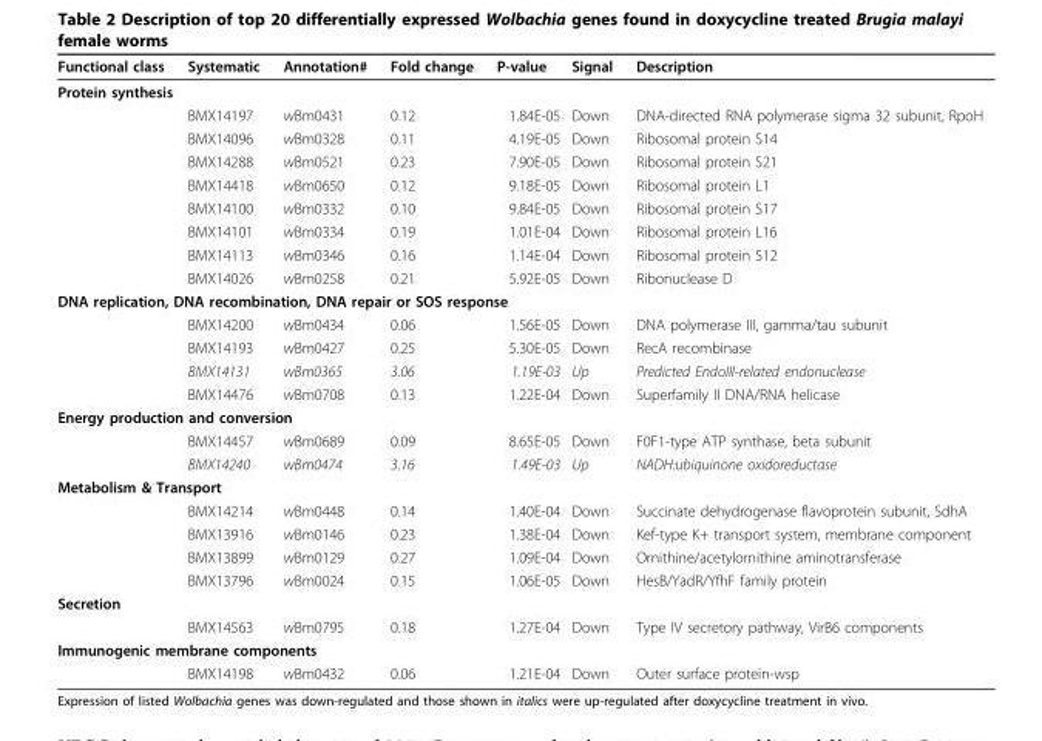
<table><thead><tr><td>Functional class</td><td>Systematic</td><td>Annotation#</td><td>Fold change</td><td>P-value</td><td>Signal</td><td>Description</td></tr></thead><tbody><tr><td colspan="7">Protein synthesis</td></tr><tr><td></td><td>BMX14197</td><td>wBm0431</td><td>0.12</td><td>1.84E-05</td><td>Down</td><td>DNA-directed RNA polymerase sigma 32 subunit, RpoH</td></tr><tr><td></td><td>BMX14096</td><td>wBm0328</td><td>0.11</td><td>4.19E-05</td><td>Down</td><td>Ribosomal protein S14</td></tr><tr><td></td><td>BMX14288</td><td>wBm0521</td><td>0.23</td><td>7.90E-05</td><td>Down</td><td>Ribosomal protein S21</td></tr><tr><td></td><td>BMX14418</td><td>wBm0650</td><td>0.12</td><td>9.18E-05</td><td>Down</td><td>Ribosomal protein L1</td></tr><tr><td></td><td>BMX14100</td><td>wBm0332</td><td>0.10</td><td>9.84E-05</td><td>Down</td><td>Ribosomal protein S17</td></tr><tr><td></td><td>BMX14101</td><td>wBm0334</td><td>0.19</td><td>1.01E-04</td><td>Down</td><td>Ribosomal protein L16</td></tr><tr><td></td><td>BMX14113</td><td>wBm0346</td><td>0.16</td><td>1.14E-04</td><td>Down</td><td>Ribosomal protein S12</td></tr><tr><td></td><td>BMX14026</td><td>wBm0258</td><td>0.21</td><td>5.92E-05</td><td>Down</td><td>Ribonuclease D</td></tr><tr><td colspan="7">DNA replication, DNA recombination, DNA repair or SOS response</td></tr><tr><td></td><td>BMX14200</td><td>wBm0434</td><td>0.06</td><td>1.56E-05</td><td>Down</td><td>DNA polymerase III, gamma/tau subunit</td></tr><tr><td></td><td>BMX14193</td><td>wBm0427</td><td>0.25</td><td>5.30E-05</td><td>Down</td><td>RecA recombinase</td></tr><tr><td></td><td>BMX14131</td><td>wBm0365</td><td>3.06</td><td>1.19E-03</td><td>Up</td><td>Predicted EndoIII-related endonuclease</td></tr><tr><td></td><td>BMX14476</td><td>wBm0708</td><td>0.13</td><td>1.22E-04</td><td>Down</td><td>Superfamily II DNA/RNA helicase</td></tr><tr><td colspan="7">Energy production and conversion</td></tr><tr><td></td><td>BMX14457</td><td>wBm0689</td><td>0.09</td><td>8.65E-05</td><td>Down</td><td>F0F1-type ATP synthase, beta subunit</td></tr><tr><td></td><td>BMX14240</td><td>wBm0474</td><td>3.16</td><td>1.49E-03</td><td>Up</td><td>NADH:ubiquinone oxidoreductase</td></tr><tr><td colspan="7">Metabolism &amp; Transport</td></tr><tr><td></td><td>BMX14214</td><td>wBm0448</td><td>0.14</td><td>1.40E-04</td><td>Down</td><td>Succinate dehydrogenase flavoprotein subunit, SdhA</td></tr><tr><td></td><td>BMX13916</td><td>wBm0146</td><td>0.23</td><td>1.38E-04</td><td>Down</td><td>Kef-type K+ transport system, membrane component</td></tr><tr><td></td><td>BMX13899</td><td>wBm0129</td><td>0.27</td><td>1.09E-04</td><td>Down</td><td>Ornithine/acetylornithine aminotransferase</td></tr><tr><td></td><td>BMX13796</td><td>wBm0024</td><td>0.15</td><td>1.06E-05</td><td>Down</td><td>HesB/YadR/YfhF family protein</td></tr><tr><td colspan="7">Secretion</td></tr><tr><td></td><td>BMX14563</td><td>wBm0795</td><td>0.18</td><td>1.27E-04</td><td>Down</td><td>Type IV secretory pathway, VirB6 components</td></tr><tr><td colspan="7">Immunogenic membrane components</td></tr><tr><td></td><td>BMX14198</td><td>wBm0432</td><td>0.06</td><td>1.21E-04</td><td>Down</td><td>Outer surface protein-wsp</td></tr></tbody></table>